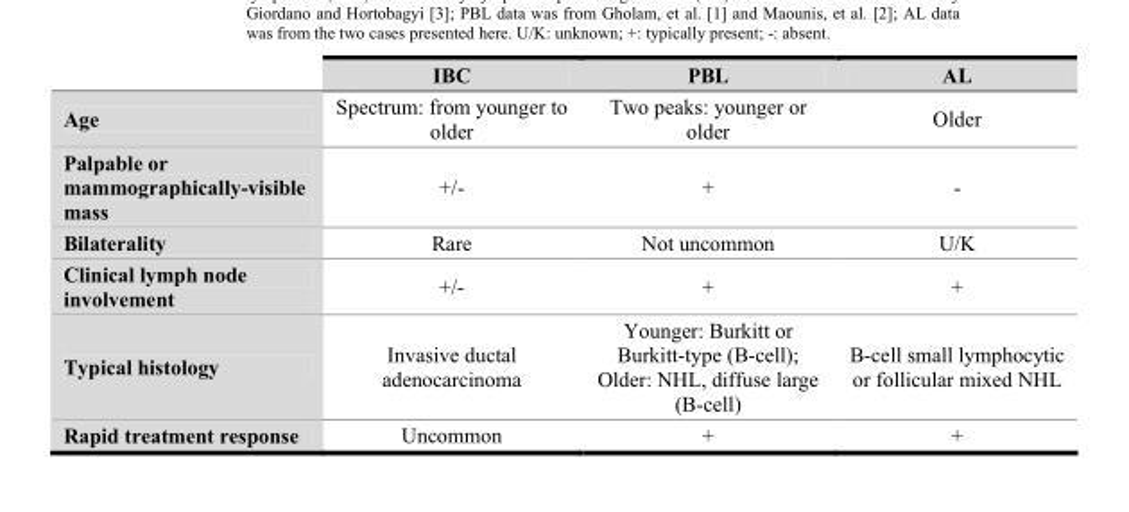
<table><thead><tr><td></td><td>IBC</td><td>PBL</td><td>AL</td></tr></thead><tbody><tr><td>Age</td><td>Spectrum: from younger to older</td><td>Two peaks: younger or older</td><td>Older</td></tr><tr><td>Palpable or mammographically-visible mass</td><td>+/-</td><td>+</td><td>-</td></tr><tr><td>Bilaterality</td><td>Rare</td><td>Not uncommon</td><td>U/K</td></tr><tr><td>Clinical lymph node involvement</td><td>+/-</td><td>+</td><td>+</td></tr><tr><td>Typical histology</td><td>Invasive ductal adenocarcinoma</td><td>Younger: Burkitt or Burkitt-type (B-cell); Older: NHL, diffuse large (B-cell)</td><td>B-cell small lymphocytic or follicular mixed NHL</td></tr><tr><td>Rapid treatment response</td><td>Uncommon</td><td>+</td><td>+</td></tr></tbody></table>